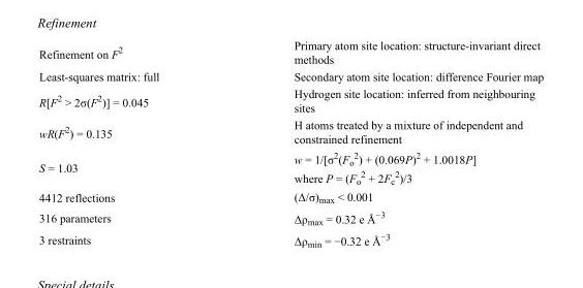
<table><tbody><tr><td>Refinement on F<sup>2</sup></td><td>Primary atom site location: structure-invariant direct methods</td></tr><tr><td>Least-squares matrix: full</td><td>Secondary atom site location: difference Fourier map</td></tr><tr><td>R[F<sup>2</sup> &gt; 2σ(F<sup>2</sup>)] = 0.045</td><td>Hydrogen site location: inferred from neighbouring sites</td></tr><tr><td>wR(F<sup>2</sup>) = 0.135</td><td>H atoms treated by a mixture of independent and constrained refinement</td></tr><tr><td>S = 1.03</td><td>w = 1/[σ<sup>2</sup>(F<sub>o</sub> <sup>2</sup>) + (0.069P)<sup>2</sup> + 1.0018P] where P = (F<sub>o</sub> <sup>2</sup> + 2F<sub>c</sub> <sup>2</sup>)/3</td></tr><tr><td>4412 reflections</td><td>(Δ/σ)<sub>max</sub> &lt; 0.001</td></tr><tr><td>316 parameters</td><td>Δρ<sub>max</sub> = 0.32 e Å<sup>−3</sup></td></tr><tr><td>3 restraints</td><td>Δρ<sub>min</sub> = −0.32 e Å<sup>−3</sup></td></tr></tbody></table>